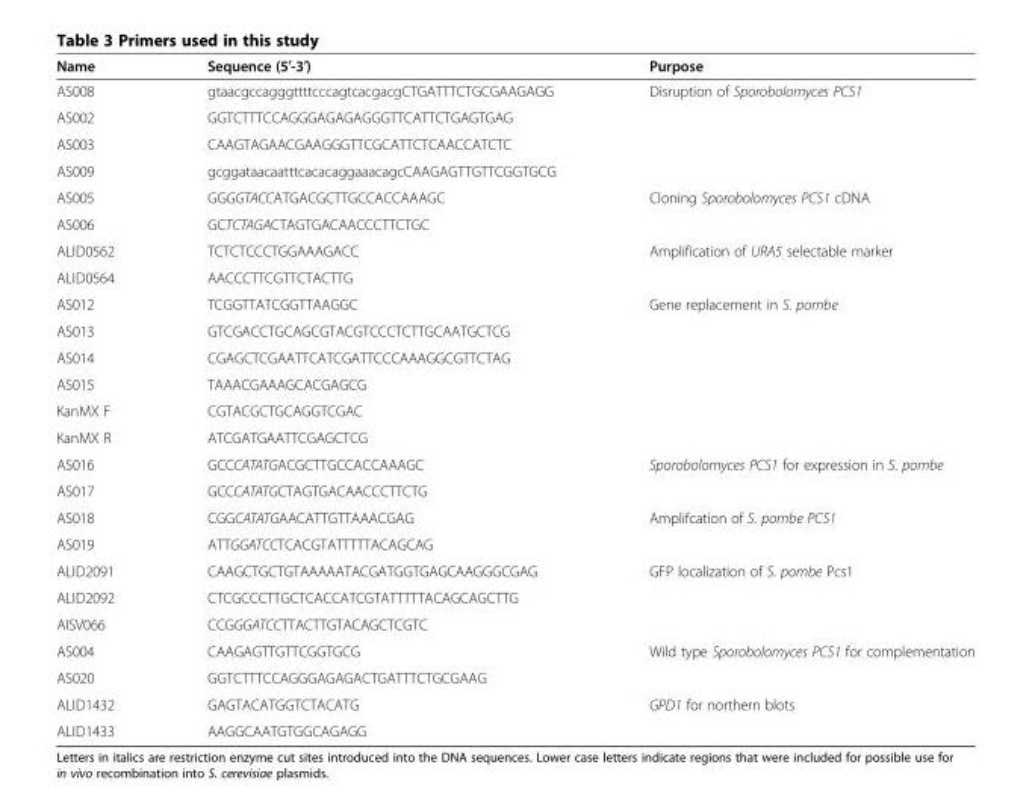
<table><thead><tr><td>Name</td><td>Sequence (5′-3′)</td><td>Purpose</td></tr></thead><tbody><tr><td>AS008</td><td>gtaacgccagggttttcccagtcacgacgCTGATTTCTGCGAAGAGG</td><td rowspan="4">Disruption of Sporobolomyces PCS1</td></tr><tr><td>AS002</td><td>GGTCTTTCCAGGGAGAGAGGGTTCATTCTGAGTGAG</td></tr><tr><td>AS003</td><td>CAAGTAGAACGAAGGGTTCGCATTCTCAACCATCTC</td></tr><tr><td>AS009</td><td>gcggataacaatttcacacaggaaacagcCAAGAGTTGTTCGGTGCG</td></tr><tr><td>AS005</td><td>GGGGTACCATGACGCTTGCCACCAAAGC</td><td rowspan="2">Cloning Sporobolomyces PCS1 cDNA</td></tr><tr><td>AS006</td><td>GCTCTAGACTAGTGACAACCCTTCTGC</td></tr><tr><td>ALID0562</td><td>TCTCTCCCTGGAAAGACC</td><td rowspan="2">Amplification of URA5 selectable marker</td></tr><tr><td>ALID0564</td><td>AACCCTTCGTTCTACTTG</td></tr><tr><td>AS012</td><td>TCGGTTATCGGTTAAGGC</td><td rowspan="6">Gene replacement in S. pombe</td></tr><tr><td>AS013</td><td>GTCGACCTGCAGCGTACGTCCCTCTTGCAATGCTCG</td></tr><tr><td>AS014</td><td>CGAGCTCGAATTCATCGATTCCCAAAGGCGTTCTAG</td></tr><tr><td>AS015</td><td>TAAACGAAAGCACGAGCG</td></tr><tr><td>KanMX F</td><td>CGTACGCTGCAGGTCGAC</td></tr><tr><td>KanMX R</td><td>ATCGATGAATTCGAGCTCG</td></tr><tr><td>AS016</td><td>GCCCATATGACGCTTGCCACCAAAGC</td><td rowspan="2">Sporobolomyces PCS1 for expression in S. pombe</td></tr><tr><td>AS017</td><td>GCCCATATGCTAGTGACAACCCTTCTG</td></tr><tr><td>AS018</td><td>CGGCATATGAACATTGTTAAACGAG</td><td rowspan="2">Amplifcation of S. pombe PCS1</td></tr><tr><td>AS019</td><td>ATTGGATCCTCACGTATTTTTACAGCAG</td></tr><tr><td>ALID2091</td><td>CAAGCTGCTGTAAAAATACGATGGTGAGCAAGGGCGAG</td><td rowspan="3">GFP localization of S. pombe Pcs1</td></tr><tr><td>ALID2092</td><td>CTCGCCCTTGCTCACCATCGTATTTTTACAGCAGCTTG</td></tr><tr><td>AISV066</td><td>CCGGGATCCTTACTTGTACAGCTCGTC</td></tr><tr><td>AS004</td><td>CAAGAGTTGTTCGGTGCG</td><td rowspan="2">Wild type Sporobolomyces PCS1 for complementation</td></tr><tr><td>AS020</td><td>GGTCTTTCCAGGGAGAGACTGATTTCTGCGAAG</td></tr><tr><td>ALID1432</td><td>GAGTACATGGTCTACATG</td><td rowspan="2">GPD1 for northern blots</td></tr><tr><td>ALID1433</td><td>AAGGCAATGTGGCAGAGG</td></tr></tbody></table>